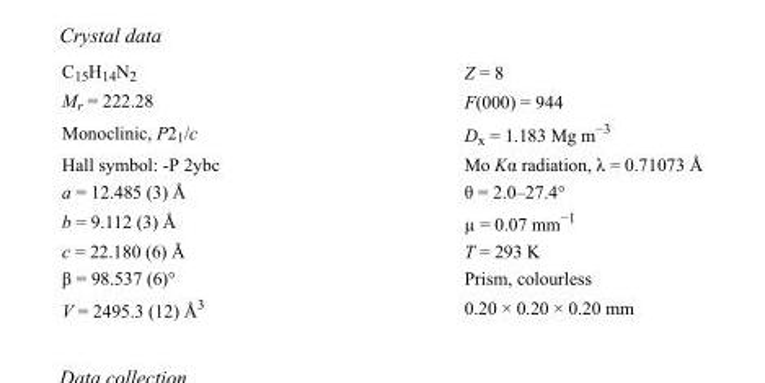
<table><tbody><tr><td>C<sub>15</sub>H<sub>14</sub>N<sub>2</sub></td><td>Z = 8</td></tr><tr><td>M<sub>r</sub> = 222.28</td><td>F(000) = 944</td></tr><tr><td>Monoclinic, P2<sub>1</sub>/c</td><td>D<sub>x</sub> = 1.183 Mg m<sup>−3</sup></td></tr><tr><td>Hall symbol: -P 2ybc</td><td>Mo Kα radiation, λ = 0.71073 Å</td></tr><tr><td>a = 12.485 (3) Å</td><td>θ = 2.0–27.4°</td></tr><tr><td>b = 9.112 (3) Å</td><td>µ = 0.07 mm<sup>−1</sup></td></tr><tr><td>c = 22.180 (6) Å</td><td>T = 293 K</td></tr><tr><td>β = 98.537 (6)°</td><td>Prism, colourless</td></tr><tr><td>V = 2495.3 (12) Å<sup>3</sup></td><td>0.20 × 0.20 × 0.20 mm</td></tr></tbody></table>